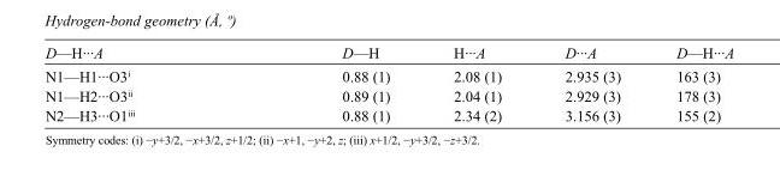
<table><tbody><tr><td>D—H···A</td><td>D—H</td><td>H···A</td><td>D···A</td><td>D—H···A</td></tr><tr><td>N1—H1···O3<sup>i</sup></td><td>0.88 (1)</td><td>2.08 (1)</td><td>2.935 (3)</td><td>163 (3)</td></tr><tr><td>N1—H2···O3<sup>ii</sup></td><td>0.89 (1)</td><td>2.04 (1)</td><td>2.929 (3)</td><td>178 (3)</td></tr><tr><td>N2—H3···O1<sup>iii</sup></td><td>0.88 (1)</td><td>2.34 (2)</td><td>3.156 (3)</td><td>155 (2)</td></tr></tbody></table>